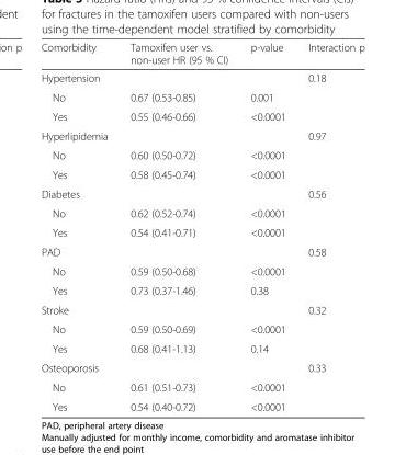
<table><thead><tr><td>Comorbidity</td><td>Tamoxifen user vs. non-user HR (95 % CI)</td><td>p-value</td><td>Interaction p</td></tr></thead><tbody><tr><td>Hypertension</td><td></td><td></td><td>0.18</td></tr><tr><td>No</td><td>0.67 (0.53-0.85)</td><td>0.001</td><td></td></tr><tr><td>Yes</td><td>0.55 (0.46-0.66)</td><td>&lt;0.0001</td><td></td></tr><tr><td>Hyperlipidemia</td><td></td><td></td><td>0.97</td></tr><tr><td>No</td><td>0.60 (0.50-0.72)</td><td>&lt;0.0001</td><td></td></tr><tr><td>Yes</td><td>0.58 (0.45-0.74)</td><td>&lt;0.0001</td><td></td></tr><tr><td>Diabetes</td><td></td><td></td><td>0.56</td></tr><tr><td>No</td><td>0.62 (0.52-0.74)</td><td>&lt;0.0001</td><td></td></tr><tr><td>Yes</td><td>0.54 (0.41-0.71)</td><td>&lt;0.0001</td><td></td></tr><tr><td>PAD</td><td></td><td></td><td>0.58</td></tr><tr><td>No</td><td>0.59 (0.50-0.68)</td><td>&lt;0.0001</td><td></td></tr><tr><td>Yes</td><td>0.73 (0.37-1.46)</td><td>0.38</td><td></td></tr><tr><td>Stroke</td><td></td><td></td><td>0.32</td></tr><tr><td>No</td><td>0.59 (0.50-0.69)</td><td>&lt;0.0001</td><td></td></tr><tr><td>Yes</td><td>0.68 (0.41-1.13)</td><td>0.14</td><td></td></tr><tr><td>Osteoporosis</td><td></td><td></td><td>0.33</td></tr><tr><td>No</td><td>0.61 (0.51-0.73)</td><td>&lt;0.0001</td><td></td></tr><tr><td>Yes</td><td>0.54 (0.40-0.72)</td><td>&lt;0.0001</td><td></td></tr></tbody></table>